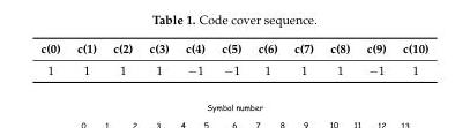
<table><thead><tr><td>c(0)</td><td>c(1)</td><td>c(2)</td><td>c(3)</td><td>c(4)</td><td>c(5)</td><td>c(6)</td><td>c(7)</td><td>c(8)</td><td>c(9)</td><td>c(10)</td></tr></thead><tbody><tr><td>1</td><td>1</td><td>1</td><td>1</td><td>−1</td><td>−1</td><td>1</td><td>1</td><td>1</td><td>−1</td><td>1</td></tr></tbody></table>